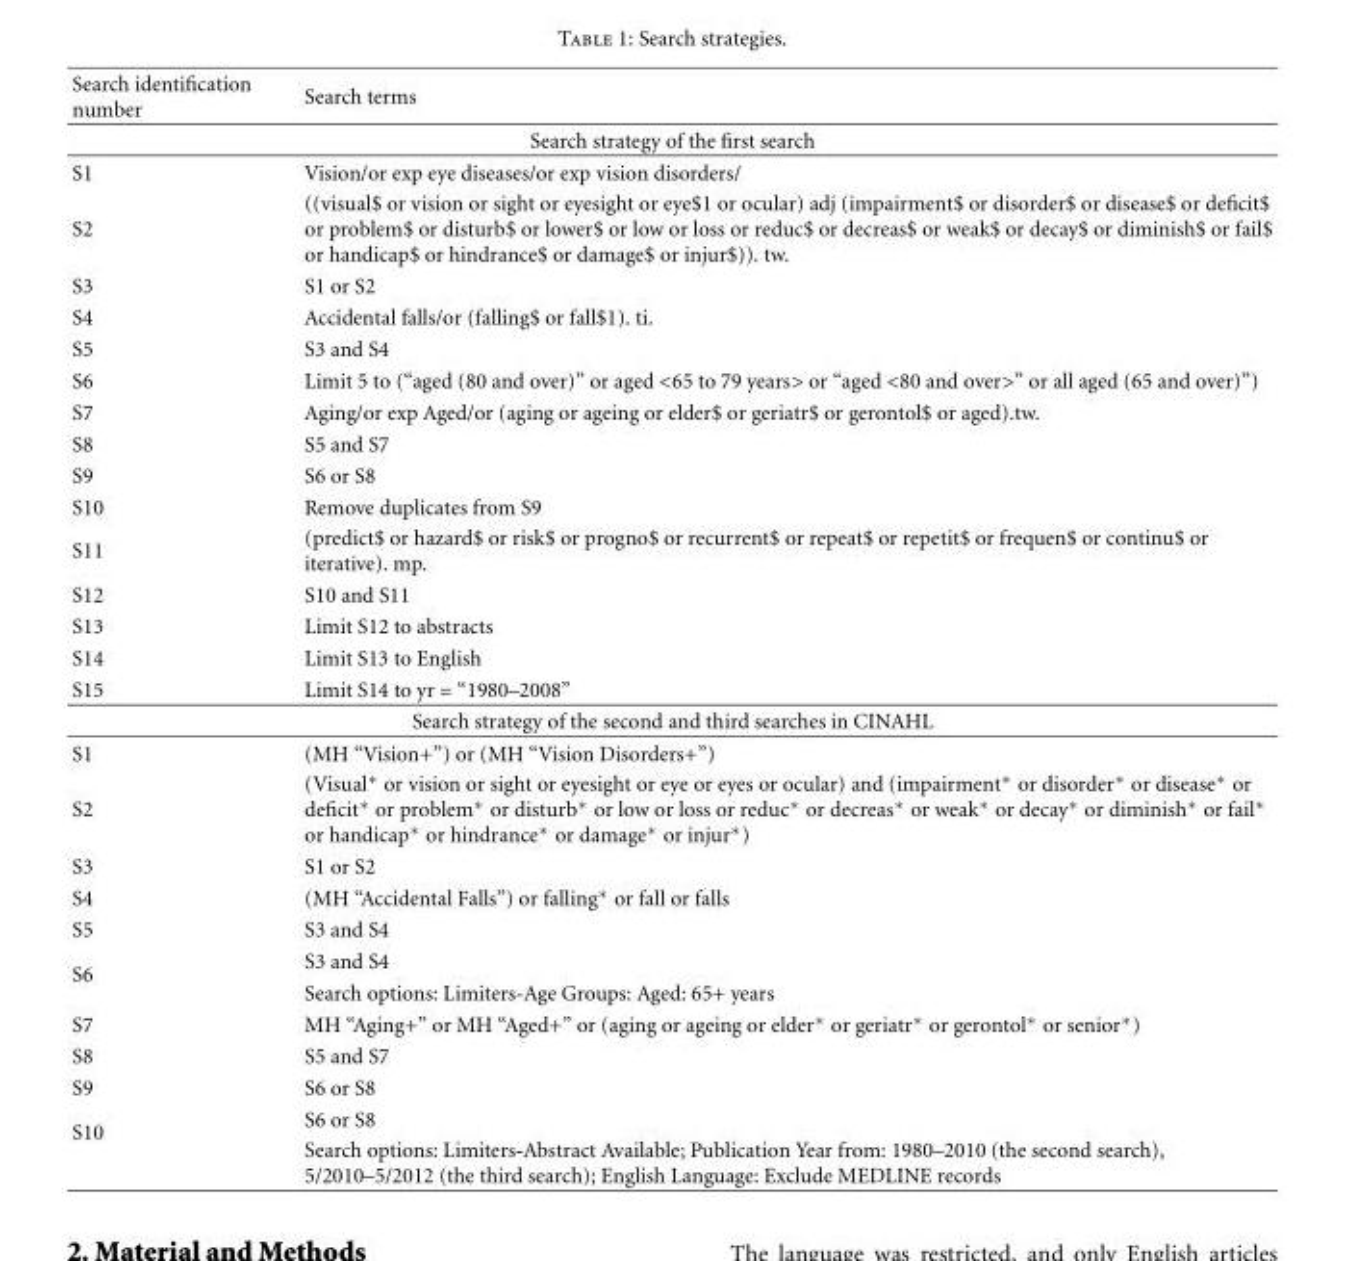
<table><thead><tr><td>Search identification number</td><td>Search terms</td></tr></thead><tbody><tr><td colspan="2">Search strategy of the first search</td></tr><tr><td>S1</td><td>Vision/or exp eye diseases/or exp vision disorders/</td></tr><tr><td>S2</td><td>((visual$ or vision or sight or eyesight or eye$1 or ocular) adj (impairment$ or disorder$ or disease$ or deficit$ or problem$ or disturb$ or lower$ or low or loss or reduc$ or decreas$ or weak$ or decay$ or diminish$ or fail$ or handicap$ or hindrance$ or damage$ or injur$)). tw.</td></tr><tr><td>S3</td><td>S1 or S2</td></tr><tr><td>S4</td><td>Accidental falls/or (falling$ or fall$1). ti.</td></tr><tr><td>S5</td><td>S3 and S4</td></tr><tr><td>S6</td><td>Limit 5 to (“aged (80 and over)” or aged &lt;65 to 79 years&gt; or “aged &lt;80 and over&gt;” or all aged (65 and over)”)</td></tr><tr><td>S7</td><td>Aging/or exp Aged/or (aging or ageing or elder$ or geriatr$ or gerontol$ or aged).tw.</td></tr><tr><td>S8</td><td>S5 and S7</td></tr><tr><td>S9</td><td>S6 or S8</td></tr><tr><td>S10</td><td>Remove duplicates from S9</td></tr><tr><td>S11</td><td>(predict$ or hazard$ or risk$ or progno$ or recurrent$ or repeat$ or repetit$ or frequen$ or continu$ or iterative). mp.</td></tr><tr><td>S12</td><td>S10 and S11</td></tr><tr><td>S13</td><td>Limit S12 to abstracts</td></tr><tr><td>S14</td><td>Limit S13 to English</td></tr><tr><td>S15</td><td>Limit S14 to yr = “1980–2008”</td></tr><tr><td colspan="2">Search strategy of the second and third searches in CINAHL</td></tr><tr><td>S1</td><td>(MH “Vision+”) or (MH “Vision Disorders+”)</td></tr><tr><td>S2</td><td>(Visual∗ or vision or sight or eyesight or eye or eyes or ocular) and (impairment∗ or disorder∗ or disease∗ or deficit∗ or problem∗ or disturb∗ or low or loss or reduc∗ or decreas∗ or weak∗ or decay∗ or diminish∗ or fail∗ or handicap∗ or hindrance∗ or damage∗ or injur∗)</td></tr><tr><td>S3</td><td>S1 or S2</td></tr><tr><td>S4</td><td>(MH “Accidental Falls”) or falling∗ or fall or falls</td></tr><tr><td>S5</td><td>S3 and S4</td></tr><tr><td rowspan="2">S6</td><td>S3 and S4</td></tr><tr><td>Search options: Limiters-Age Groups: Aged: 65+ years</td></tr><tr><td>S7</td><td>MH “Aging+” or MH “Aged+” or (aging or ageing or elder∗ or geriatr∗ or gerontol∗ or senior∗)</td></tr><tr><td>S8</td><td>S5 and S7</td></tr><tr><td>S9</td><td>S6 or S8</td></tr><tr><td rowspan="2">S10</td><td>S6 or S8</td></tr><tr><td>Search options: Limiters-Abstract Available; Publication Year from: 1980–2010 (the second search), 5/2010–5/2012 (the third search); English Language: Exclude MEDLINE records</td></tr></tbody></table>